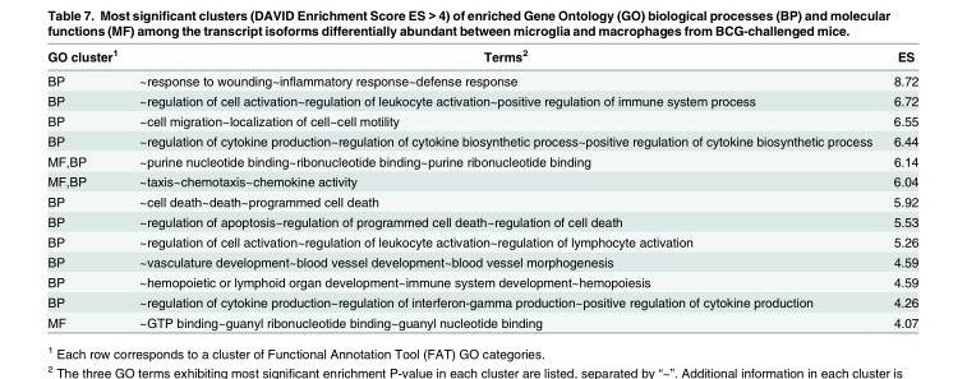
<table><thead><tr><td>GO cluster<sup>1</sup></td><td>Terms<sup>2</sup></td><td>ES</td></tr></thead><tbody><tr><td>BP</td><td>~response to wounding~inflammatory response~defense response</td><td>8.72</td></tr><tr><td>BP</td><td>~regulation of cell activation~regulation of leukocyte activation~positive regulation of immune system process</td><td>6.72</td></tr><tr><td>BP</td><td>~cell migration~localization of cell~cell motility</td><td>6.55</td></tr><tr><td>BP</td><td>~regulation of cytokine production~regulation of cytokine biosynthetic process~positive regulation of cytokine biosynthetic process</td><td>6.44</td></tr><tr><td>MF,BP</td><td>~purine nucleotide binding~ribonucleotide binding~purine ribonucleotide binding</td><td>6.14</td></tr><tr><td>MF,BP</td><td>~taxis~chemotaxis~chemokine activity</td><td>6.04</td></tr><tr><td>BP</td><td>~cell death~death~programmed cell death</td><td>5.92</td></tr><tr><td>BP</td><td>~regulation of apoptosis~regulation of programmed cell death~regulation of cell death</td><td>5.53</td></tr><tr><td>BP</td><td>~regulation of cell activation~regulation of leukocyte activation~regulation of lymphocyte activation</td><td>5.26</td></tr><tr><td>BP</td><td>~vasculature development~blood vessel development~blood vessel morphogenesis</td><td>4.59</td></tr><tr><td>BP</td><td>~hemopoietic or lymphoid organ development~immune system development~hemopoiesis</td><td>4.59</td></tr><tr><td>BP</td><td>~regulation of cytokine production~regulation of interferon-gamma production~positive regulation of cytokine production</td><td>4.26</td></tr><tr><td>MF</td><td>~GTP binding~guanyl ribonucleotide binding~guanyl nucleotide binding</td><td>4.07</td></tr></tbody></table>